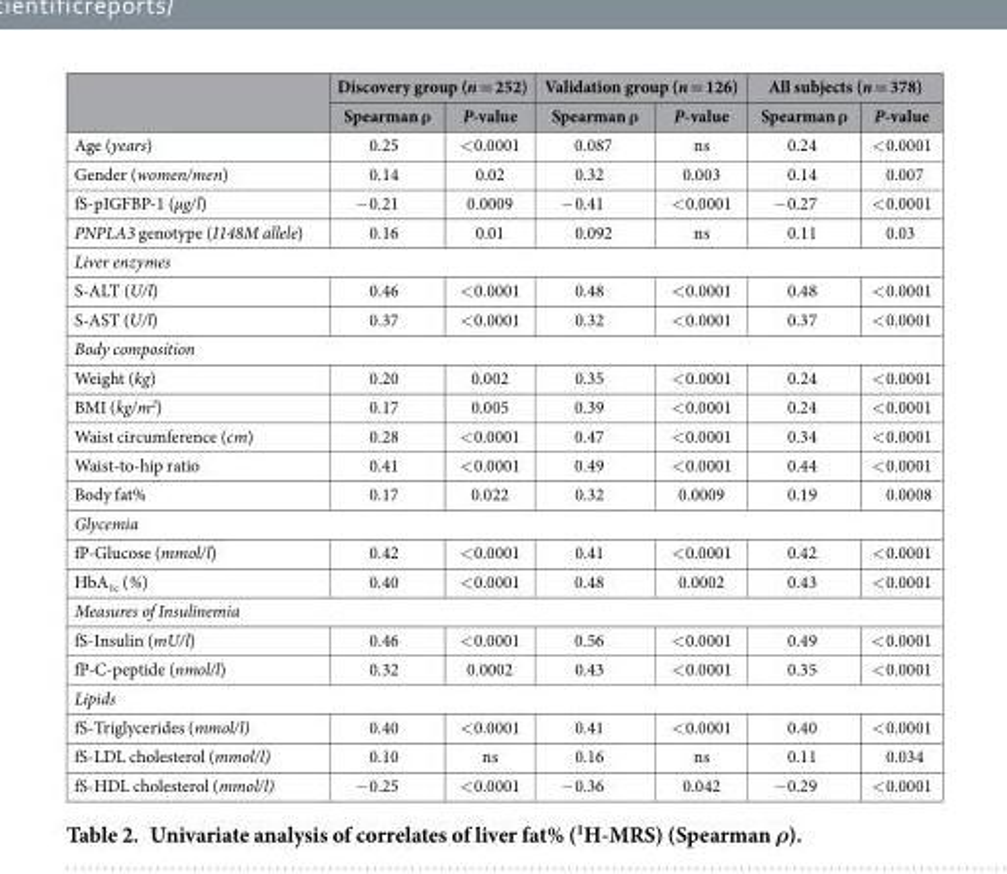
<table><thead><tr><td rowspan="2"></td><td colspan="2">Discovery group (n = 252)</td><td colspan="2">Validation group (n = 126)</td><td colspan="2">All subjects (n = 378)</td></tr><tr><td>Spearman ρ</td><td>P-value</td><td>Spearman ρ</td><td>P-value</td><td>Spearman ρ</td><td>P-value</td></tr></thead><tbody><tr><td>Age (years)</td><td>0.25</td><td>&lt; 0.0001</td><td>0.087</td><td>ns</td><td>0.24</td><td>&lt; 0.0001</td></tr><tr><td>Gender (women/men)</td><td>0.14</td><td>0.02</td><td>0.32</td><td>0.003</td><td>0.14</td><td>0.007</td></tr><tr><td>fS-pIGFBP-1 (μg/l)</td><td>− 0.21</td><td>0.0009</td><td>− 0.41</td><td>&lt; 0.0001</td><td>− 0.27</td><td>&lt; 0.0001</td></tr><tr><td>PNPLA3 genotype (I148M allele)</td><td>0.16</td><td>0.01</td><td>0.092</td><td>ns</td><td>0.11</td><td>0.03</td></tr><tr><td colspan="7">Liver enzymes</td></tr><tr><td>S-ALT (U/l)</td><td>0.46</td><td>&lt; 0.0001</td><td>0.48</td><td>&lt; 0.0001</td><td>0.48</td><td>&lt; 0.0001</td></tr><tr><td>S-AST (U/l)</td><td>0.37</td><td>&lt; 0.0001</td><td>0.32</td><td>&lt; 0.0001</td><td>0.37</td><td>&lt; 0.0001</td></tr><tr><td colspan="7">Body composition</td></tr><tr><td>Weight (kg)</td><td>0.20</td><td>0.002</td><td>0.35</td><td>&lt; 0.0001</td><td>0.24</td><td>&lt; 0.0001</td></tr><tr><td>BMI (kg/m<sup>2</sup>)</td><td>0.17</td><td>0.005</td><td>0.39</td><td>&lt; 0.0001</td><td>0.24</td><td>&lt; 0.0001</td></tr><tr><td>Waist circumference (cm)</td><td>0.28</td><td>&lt; 0.0001</td><td>0.47</td><td>&lt; 0.0001</td><td>0.34</td><td>&lt; 0.0001</td></tr><tr><td>Waist-to-hip ratio</td><td>0.41</td><td>&lt; 0.0001</td><td>0.49</td><td>&lt; 0.0001</td><td>0.44</td><td>&lt; 0.0001</td></tr><tr><td>Body fat%</td><td>0.17</td><td>0.022</td><td>0.32</td><td>0.0009</td><td>0.19</td><td>0.0008</td></tr><tr><td colspan="7">Glycemia</td></tr><tr><td>fP-Glucose (mmol/l)</td><td>0.42</td><td>&lt; 0.0001</td><td>0.41</td><td>&lt; 0.0001</td><td>0.42</td><td>&lt; 0.0001</td></tr><tr><td>HbA<sub>1c</sub> (%)</td><td>0.40</td><td>&lt; 0.0001</td><td>0.48</td><td>0.0002</td><td>0.43</td><td>&lt; 0.0001</td></tr><tr><td colspan="7">Measures of Insulinemia</td></tr><tr><td>fS-Insulin (mU/l)</td><td>0.46</td><td>&lt; 0.0001</td><td>0.56</td><td>&lt; 0.0001</td><td>0.49</td><td>&lt; 0.0001</td></tr><tr><td>fP-C-peptide (nmol/l)</td><td>0.32</td><td>0.0002</td><td>0.43</td><td>&lt; 0.0001</td><td>0.35</td><td>&lt; 0.0001</td></tr><tr><td colspan="7">Lipids</td></tr><tr><td>fS-Triglycerides (mmol/l)</td><td>0.40</td><td>&lt; 0.0001</td><td>0.41</td><td>&lt; 0.0001</td><td>0.40</td><td>&lt; 0.0001</td></tr><tr><td>fS-LDL cholesterol (mmol/l)</td><td>0.10</td><td>ns</td><td>0.16</td><td>ns</td><td>0.11</td><td>0.034</td></tr><tr><td>fS-HDL cholesterol (mmol/l)</td><td>− 0.25</td><td>&lt; 0.0001</td><td>− 0.36</td><td>0.042</td><td>− 0.29</td><td>&lt; 0.0001</td></tr></tbody></table>